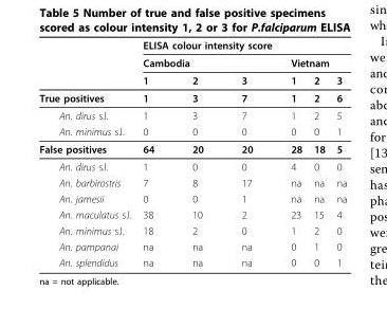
<table><thead><tr><td rowspan="3"></td><td rowspan="2" colspan="3">ELISA colour intensity score Cambodia</td><td></td><td></td><td></td></tr><tr><td colspan="3">Vietnam</td></tr><tr><td>1</td><td>2</td><td>3</td><td>1</td><td>2</td><td>3</td></tr></thead><tbody><tr><td>True positives</td><td>1</td><td>3</td><td>7</td><td>1</td><td>2</td><td>6</td></tr><tr><td>An. dirus s.l.</td><td>1</td><td>3</td><td>7</td><td>1</td><td>2</td><td>5</td></tr><tr><td>An. minimus s.l.</td><td>0</td><td>0</td><td>0</td><td>0</td><td>0</td><td>1</td></tr><tr><td>False positives</td><td>64</td><td>20</td><td>20</td><td>28</td><td>18</td><td>5</td></tr><tr><td>An. dirus s.l.</td><td>1</td><td>0</td><td>0</td><td>4</td><td>0</td><td>0</td></tr><tr><td>An. barbirostris</td><td>7</td><td>8</td><td>17</td><td>na</td><td>na</td><td>na</td></tr><tr><td>An. jamesii</td><td>0</td><td>0</td><td>1</td><td>na</td><td>na</td><td>na</td></tr><tr><td>An. maculatus s.l.</td><td>38</td><td>10</td><td>2</td><td>23</td><td>15</td><td>4</td></tr><tr><td>An. minimus s.l.</td><td>18</td><td>2</td><td>0</td><td>1</td><td>2</td><td>0</td></tr><tr><td>An. pampanai</td><td>na</td><td>na</td><td>na</td><td>0</td><td>1</td><td>0</td></tr><tr><td>An. splendidus</td><td>na</td><td>na</td><td>na</td><td>0</td><td>0</td><td>1</td></tr></tbody></table>